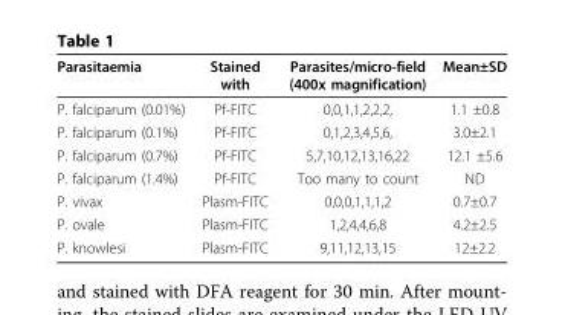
<table><thead><tr><td>Parasitaemia</td><td>Stained with</td><td>Parasites/micro-field (400x magnification)</td><td>Mean±SD</td></tr></thead><tbody><tr><td>P. falciparum (0.01%)</td><td>Pf-FITC</td><td>0,0,1,1,2,2,2,</td><td>1.1 ±0.8</td></tr><tr><td>P. falciparum (0.1%)</td><td>Pf-FITC</td><td>0,1,2,3,4,5,6,</td><td>3.0±2.1</td></tr><tr><td>P. falciparum (0.7%)</td><td>Pf-FITC</td><td>5,7,10,12,13,16,22</td><td>12.1 ±5.6</td></tr><tr><td>P. falciparum (1.4%)</td><td>Pf-FITC</td><td>Too many to count</td><td>ND</td></tr><tr><td>P. vivax</td><td>Plasm-FITC</td><td>0,0,0,1,1,1,2</td><td>0.7±0.7</td></tr><tr><td>P. ovale</td><td>Plasm-FITC</td><td>1,2,4,4,6,8</td><td>4.2±2.5</td></tr><tr><td>P. knowlesi</td><td>Plasm-FITC</td><td>9,11,12,13,15</td><td>12±2.2</td></tr></tbody></table>